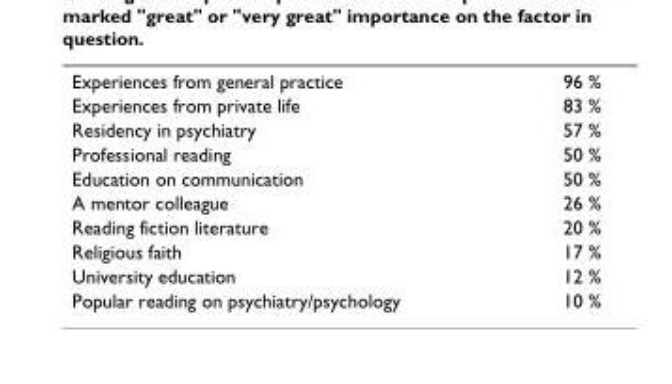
<table><tbody><tr><td>Experiences from general practice</td><td>96 %</td></tr><tr><td>Experiences from private life</td><td>83 %</td></tr><tr><td>Residency in psychiatry</td><td>57 %</td></tr><tr><td>Professional reading</td><td>50 %</td></tr><tr><td>Education on communication</td><td>50 %</td></tr><tr><td>A mentor colleague</td><td>26 %</td></tr><tr><td>Reading fiction literature</td><td>20 %</td></tr><tr><td>Religious faith</td><td>17 %</td></tr><tr><td>University education</td><td>12 %</td></tr><tr><td>Popular reading on psychiatry/psychology</td><td>10 %</td></tr></tbody></table>